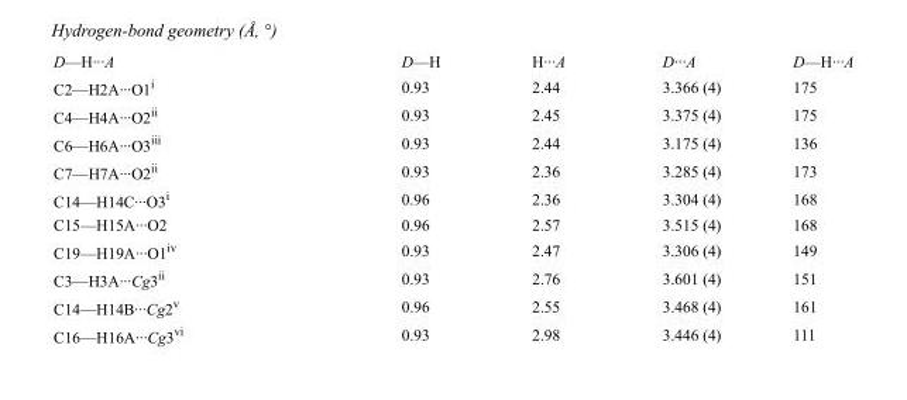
<table><tbody><tr><td>D—H···A</td><td>D—H</td><td>H···A</td><td>D···A</td><td>D—H···A</td></tr><tr><td>C2—H2A···O1<sup>i</sup></td><td>0.93</td><td>2.44</td><td>3.366 (4)</td><td>175</td></tr><tr><td>C4—H4A···O2<sup>ii</sup></td><td>0.93</td><td>2.45</td><td>3.375 (4)</td><td>175</td></tr><tr><td>C6—H6A···O3<sup>iii</sup></td><td>0.93</td><td>2.44</td><td>3.175 (4)</td><td>136</td></tr><tr><td>C7—H7A···O2<sup>ii</sup></td><td>0.93</td><td>2.36</td><td>3.285 (4)</td><td>173</td></tr><tr><td>C14—H14C···O3<sup>i</sup></td><td>0.96</td><td>2.36</td><td>3.304 (4)</td><td>168</td></tr><tr><td>C15—H15A···O2</td><td>0.96</td><td>2.57</td><td>3.515 (4)</td><td>168</td></tr><tr><td>C19—H19A···O1<sup>iv</sup></td><td>0.93</td><td>2.47</td><td>3.306 (4)</td><td>149</td></tr><tr><td>C3—H3A···Cg3<sup>ii</sup></td><td>0.93</td><td>2.76</td><td>3.601 (4)</td><td>151</td></tr><tr><td>C14—H14B···Cg2<sup>v</sup></td><td>0.96</td><td>2.55</td><td>3.468 (4)</td><td>161</td></tr><tr><td>C16—H16A···Cg3<sup>vi</sup></td><td>0.93</td><td>2.98</td><td>3.446 (4)</td><td>111</td></tr></tbody></table>